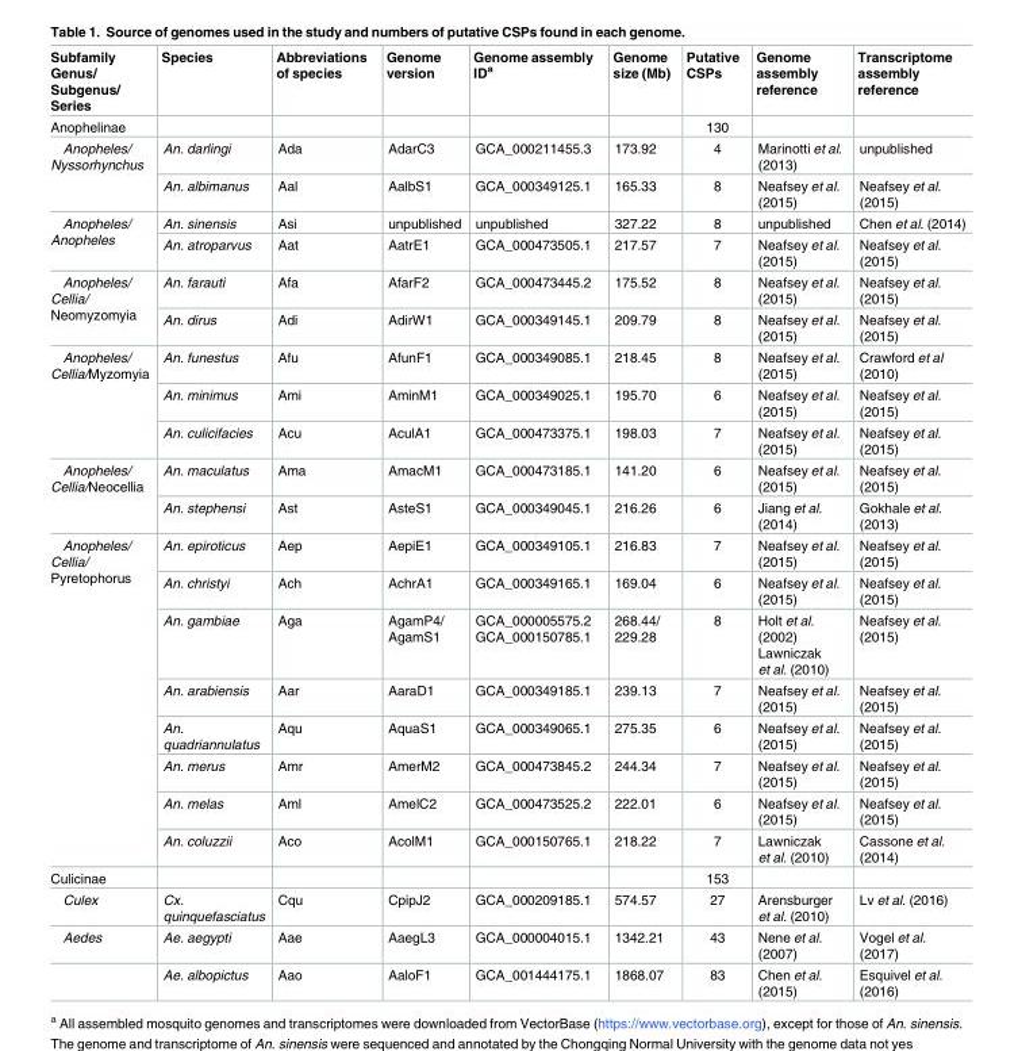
<table><thead><tr><td>Subfamily Genus/ Subgenus/ Series</td><td>Species</td><td>Abbreviations of species</td><td>Genome version</td><td>Genome assembly ID<sup>a</sup></td><td>Genome size (Mb)</td><td>Putative CSPs</td><td>Genome assembly reference</td><td>Transcriptome assembly reference</td></tr></thead><tbody><tr><td>Anophelinae</td><td></td><td></td><td></td><td></td><td></td><td>130</td><td></td><td></td></tr><tr><td rowspan="2">Anopheles/ Nyssorhynchus</td><td>An. darlingi</td><td>Ada</td><td>AdarC3</td><td>GCA_000211455.3</td><td>173.92</td><td>4</td><td>Marinotti et al. (2013)</td><td>unpublished</td></tr><tr><td>An. albimanus</td><td>Aal</td><td>AalbS1</td><td>GCA_000349125.1</td><td>165.33</td><td>8</td><td>Neafsey et al. (2015)</td><td>Neafsey et al. (2015)</td></tr><tr><td rowspan="2">Anopheles/ Anopheles</td><td>An. sinensis</td><td>Asi</td><td>unpublished</td><td>unpublished</td><td>327.22</td><td>8</td><td>unpublished</td><td>Chen et al. (2014)</td></tr><tr><td>An. atroparvus</td><td>Aat</td><td>AatrE1</td><td>GCA_000473505.1</td><td>217.57</td><td>7</td><td>Neafsey et al. (2015)</td><td>Neafsey et al. (2015)</td></tr><tr><td rowspan="2">Anopheles/ Cellia/ Neomyzomyia</td><td>An. farauti</td><td>Afa</td><td>AfarF2</td><td>GCA_000473445.2</td><td>175.52</td><td>8</td><td>Neafsey et al. (2015)</td><td>Neafsey et al. (2015)</td></tr><tr><td>An. dirus</td><td>Adi</td><td>AdirW1</td><td>GCA_000349145.1</td><td>209.79</td><td>8</td><td>Neafsey et al. (2015)</td><td>Neafsey et al. (2015)</td></tr><tr><td rowspan="3">Anopheles/ Cellia/Myzomyia</td><td>An. funestus</td><td>Afu</td><td>AfunF1</td><td>GCA_000349085.1</td><td>218.45</td><td>8</td><td>Neafsey et al. (2015)</td><td>Crawford et al (2010)</td></tr><tr><td>An. minimus</td><td>Ami</td><td>AminM1</td><td>GCA_000349025.1</td><td>195.70</td><td>6</td><td>Neafsey et al. (2015)</td><td>Neafsey et al. (2015)</td></tr><tr><td>An. culicifacies</td><td>Acu</td><td>AculA1</td><td>GCA_000473375.1</td><td>198.03</td><td>7</td><td>Neafsey et al. (2015)</td><td>Neafsey et al. (2015)</td></tr><tr><td rowspan="2">Anopheles/ Cellia/Neocellia</td><td>An. maculatus</td><td>Ama</td><td>AmacM1</td><td>GCA_000473185.1</td><td>141.20</td><td>6</td><td>Neafsey et al. (2015)</td><td>Neafsey et al. (2015)</td></tr><tr><td>An. stephensi</td><td>Ast</td><td>AsteS1</td><td>GCA_000349045.1</td><td>216.26</td><td>6</td><td>Jiang et al. (2014)</td><td>Gokhale et al. (2013)</td></tr><tr><td rowspan="8">Anopheles/ Cellia/ Pyretophorus</td><td>An. epiroticus</td><td>Aep</td><td>AepiE1</td><td>GCA_000349105.1</td><td>216.83</td><td>7</td><td>Neafsey et al. (2015)</td><td>Neafsey et al. (2015)</td></tr><tr><td>An. christyi</td><td>Ach</td><td>AchrA1</td><td>GCA_000349165.1</td><td>169.04</td><td>6</td><td>Neafsey et al. (2015)</td><td>Neafsey et al. (2015)</td></tr><tr><td>An. gambiae</td><td>Aga</td><td>AgamP4/ AgamS1</td><td>GCA_000005575.2 GCA_000150785.1</td><td>268.44/ 229.28</td><td>8</td><td>Holt et al. (2002) Lawniczak et al. (2010)</td><td>Neafsey et al. (2015)</td></tr><tr><td>An. arabiensis</td><td>Aar</td><td>AaraD1</td><td>GCA_000349185.1</td><td>239.13</td><td>7</td><td>Neafsey et al. (2015)</td><td>Neafsey et al. (2015)</td></tr><tr><td>An. quadriannulatus</td><td>Aqu</td><td>AquaS1</td><td>GCA_000349065.1</td><td>275.35</td><td>6</td><td>Neafsey et al. (2015)</td><td>Neafsey et al. (2015)</td></tr><tr><td>An. merus</td><td>Amr</td><td>AmerM2</td><td>GCA_000473845.2</td><td>244.34</td><td>7</td><td>Neafsey et al. (2015)</td><td>Neafsey et al. (2015)</td></tr><tr><td>An. melas</td><td>Aml</td><td>AmelC2</td><td>GCA_000473525.2</td><td>222.01</td><td>6</td><td>Neafsey et al. (2015)</td><td>Neafsey et al. (2015)</td></tr><tr><td>An. coluzzii</td><td>Aco</td><td>AcolM1</td><td>GCA_000150765.1</td><td>218.22</td><td>7</td><td>Lawniczak et al. (2010)</td><td>Cassone et al. (2014)</td></tr><tr><td>Culicinae</td><td></td><td></td><td></td><td></td><td></td><td>153</td><td></td><td></td></tr><tr><td>Culex</td><td>Cx. quinquefasciatus</td><td>Cqu</td><td>CpipJ2</td><td>GCA_000209185.1</td><td>574.57</td><td>27</td><td>Arensburger et al. (2010)</td><td>Lv et al. (2016)</td></tr><tr><td rowspan="2">Aedes</td><td>Ae. aegypti</td><td>Aae</td><td>AaegL3</td><td>GCA_000004015.1</td><td>1342.21</td><td>43</td><td>Nene et al. (2007)</td><td>Vogel et al. (2017)</td></tr><tr><td>Ae. albopictus</td><td>Aao</td><td>AaloF1</td><td>GCA_001444175.1</td><td>1868.07</td><td>83</td><td>Chen et al. (2015)</td><td>Esquivel et al. (2016)</td></tr></tbody></table>